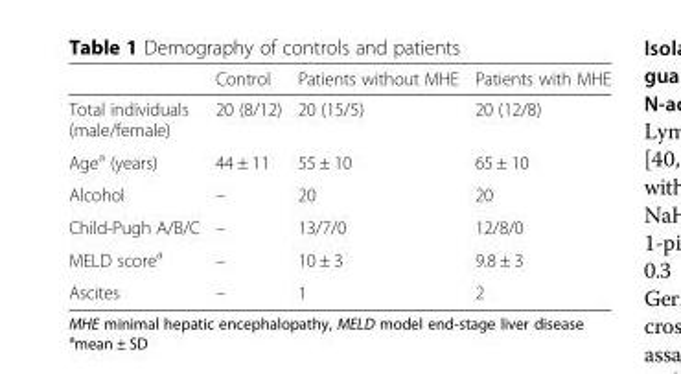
<table><thead><tr><td></td><td>Control</td><td>Patients without MHE</td><td>Patients with MHE</td></tr></thead><tbody><tr><td>Total individuals (male/female)</td><td>20 (8/12)</td><td>20 (15/5)</td><td>20 (12/8)</td></tr><tr><td>Age<sup>a</sup> (years)</td><td>44 ± 11</td><td>55 ± 10</td><td>65 ± 10</td></tr><tr><td>Alcohol</td><td>–</td><td>20</td><td>20</td></tr><tr><td>Child-Pugh A/B/C</td><td>–</td><td>13/7/0</td><td>12/8/0</td></tr><tr><td>MELD score<sup>a</sup></td><td>–</td><td>10 ± 3</td><td>9.8 ± 3</td></tr><tr><td>Ascites</td><td>–</td><td>1</td><td>2</td></tr></tbody></table>